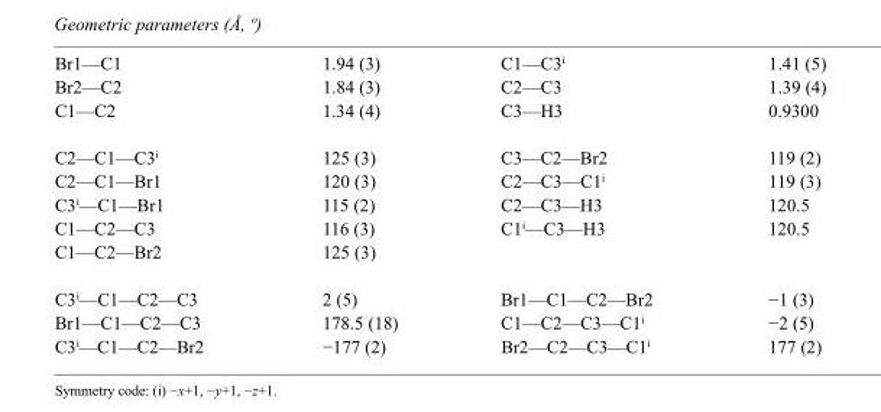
<table><tbody><tr><td>Br1—C1</td><td>1.94 (3)</td><td>C1—C3<sup>i</sup></td><td>1.41 (5)</td></tr><tr><td>Br2—C2</td><td>1.84 (3)</td><td>C2—C3</td><td>1.39 (4)</td></tr><tr><td>C1—C2</td><td>1.34 (4)</td><td>C3—H3</td><td>0.9300</td></tr><tr><td>C2—C1—C3<sup>i</sup></td><td>125 (3)</td><td>C3—C2—Br2</td><td>119 (2)</td></tr><tr><td>C2—C1—Br1</td><td>120 (3)</td><td>C2—C3—C1<sup>i</sup></td><td>119 (3)</td></tr><tr><td>C3<sup>i</sup>—C1—Br1</td><td>115 (2)</td><td>C2—C3—H3</td><td>120.5</td></tr><tr><td>C1—C2—C3</td><td>116 (3)</td><td>C1<sup>i</sup>—C3—H3</td><td>120.5</td></tr><tr><td>C1—C2—Br2</td><td>125 (3)</td><td></td><td></td></tr><tr><td>C3<sup>i</sup>—C1—C2—C3</td><td>2 (5)</td><td>Br1—C1—C2—Br2</td><td>−1 (3)</td></tr><tr><td>Br1—C1—C2—C3</td><td>178.5 (18)</td><td>C1—C2—C3—C1<sup>i</sup></td><td>−2 (5)</td></tr><tr><td>C3<sup>i</sup>—C1—C2—Br2</td><td>−177 (2)</td><td>Br2—C2—C3—C1<sup>i</sup></td><td>177 (2)</td></tr></tbody></table>